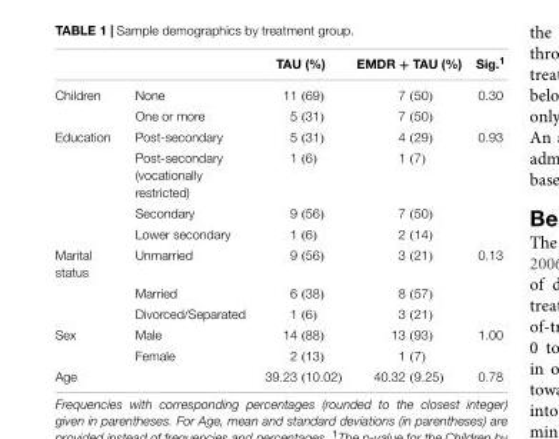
<table><thead><tr><td></td><td></td><td>TAU (%)</td><td>EMDR + TAU (%)</td><td>Sig.<sup>1</sup></td></tr></thead><tbody><tr><td rowspan="2">Children</td><td>None</td><td>11 (69)</td><td>7 (50)</td><td>0.30</td></tr><tr><td>One or more</td><td>5 (31)</td><td>7 (50)</td><td></td></tr><tr><td rowspan="4">Education</td><td>Post-secondary</td><td>5 (31)</td><td>4 (29)</td><td>0.93</td></tr><tr><td>Post-secondary (vocationally restricted)</td><td>1 (6)</td><td>1 (7)</td><td></td></tr><tr><td>Secondary</td><td>9 (56)</td><td>7 (50)</td><td></td></tr><tr><td>Lower secondary</td><td>1 (6)</td><td>2 (14)</td><td></td></tr><tr><td rowspan="3">Marital status</td><td>Unmarried</td><td>9 (56)</td><td>3 (21)</td><td>0.13</td></tr><tr><td>Married</td><td>6 (38)</td><td>8 (57)</td><td></td></tr><tr><td>Divorced/Separated</td><td>1 (6)</td><td>3 (21)</td><td></td></tr><tr><td rowspan="2">Sex</td><td>Male</td><td>14 (88)</td><td>13 (93)</td><td>1.00</td></tr><tr><td>Female</td><td>2 (13)</td><td>1 (7)</td><td></td></tr><tr><td>Age</td><td></td><td>39.23 (10.02)</td><td>40.32 (9.25)</td><td>0.78</td></tr></tbody></table>